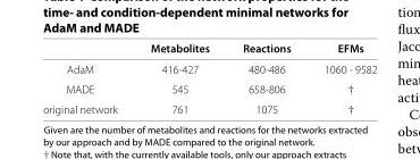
<table><thead><tr><td></td><td>Metabolites</td><td>Reactions</td><td>EFMs</td></tr></thead><tbody><tr><td>AdaM</td><td>416-427</td><td>480-486</td><td>1060 - 9582</td></tr><tr><td>MADE</td><td>545</td><td>658-806</td><td>†</td></tr><tr><td>original network</td><td>761</td><td>1075</td><td>†</td></tr></tbody></table>